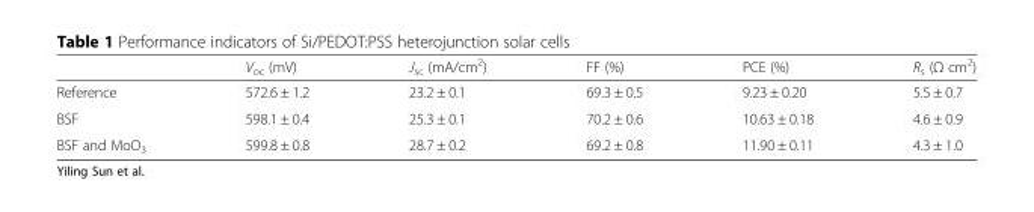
<table><thead><tr><td></td><td>V<sub>oc</sub> (mV)</td><td>J<sub>sc</sub> (mA/cm<sup>2</sup>)</td><td>FF (%)</td><td>PCE (%)</td><td>R<sub>s</sub> (Ω cm<sup>2</sup>)</td></tr></thead><tbody><tr><td>Reference</td><td>572.6 ± 1.2</td><td>23.2 ± 0.1</td><td>69.3 ± 0.5</td><td>9.23 ± 0.20</td><td>5.5 ± 0.7</td></tr><tr><td>BSF</td><td>598.1 ± 0.4</td><td>25.3 ± 0.1</td><td>70.2 ± 0.6</td><td>10.63 ± 0.18</td><td>4.6 ± 0.9</td></tr><tr><td>BSF and MoO<sub>3</sub></td><td>599.8 ± 0.8</td><td>28.7 ± 0.2</td><td>69.2 ± 0.8</td><td>11.90 ± 0.11</td><td>4.3 ± 1.0</td></tr></tbody></table>